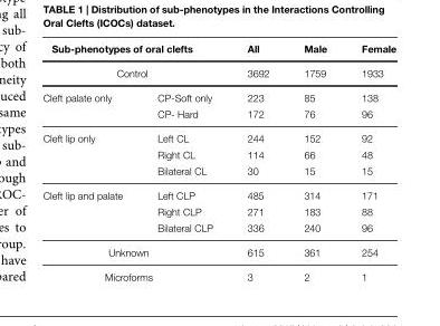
<table><thead><tr><td rowspan="2" colspan="2">Sub-phenotypes of oral clefts Control</td><td rowspan="3">All 3692 223</td><td rowspan="3">Male 1759 85</td><td rowspan="3">Female 1933 138</td></tr><tr></tr><tr><td>Cleft palate only</td><td>CP-Soft only</td></tr></thead><tbody><tr><td></td><td>CP- Hard</td><td>172</td><td>76</td><td>96</td></tr><tr><td rowspan="3">Cleft lip only</td><td>Left CL</td><td>244</td><td>152</td><td>92</td></tr><tr><td>Right CL</td><td>114</td><td>66</td><td>48</td></tr><tr><td>Bilateral CL</td><td>30</td><td>15</td><td>15</td></tr><tr><td rowspan="3">Cleft lip and palate</td><td>Left CLP</td><td>485</td><td>314</td><td>171</td></tr><tr><td>Right CLP</td><td>271</td><td>183</td><td>88</td></tr><tr><td>Bilateral CLP</td><td>336</td><td>240</td><td>96</td></tr><tr><td colspan="2">Unknown</td><td>615</td><td>361</td><td>254</td></tr><tr><td colspan="2">Microforms</td><td>3</td><td>2</td><td>1</td></tr></tbody></table>